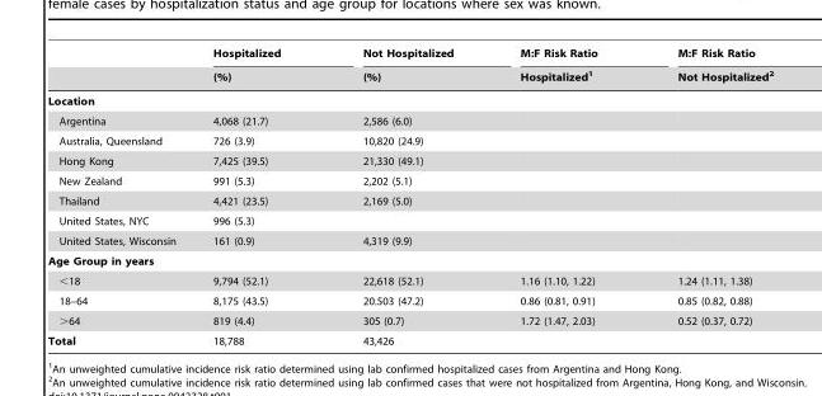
<table><thead><tr><td rowspan="2"></td><td rowspan="2">Hospitalized (%)</td><td rowspan="2">Not Hospitalized (%)</td><td rowspan="2">M:F Risk Ratio Hospitalized<sup>1</sup></td><td rowspan="2">M:F Risk Ratio Not Hospitalized<sup>2</sup></td></tr><tr></tr></thead><tbody><tr><td colspan="5">Location</td></tr><tr><td>Argentina</td><td>4,068 (21.7)</td><td>2,586 (6.0)</td><td></td><td></td></tr><tr><td>Australia, Queensland</td><td>726 (3.9)</td><td>10,820 (24.9)</td><td></td><td></td></tr><tr><td>Hong Kong</td><td>7,425 (39.5)</td><td>21,330 (49.1)</td><td></td><td></td></tr><tr><td>New Zealand</td><td>991 (5.3)</td><td>2,202 (5.1)</td><td></td><td></td></tr><tr><td>Thailand</td><td>4,421 (23.5)</td><td>2,169 (5.0)</td><td></td><td></td></tr><tr><td>United States, NYC</td><td>996 (5.3)</td><td></td><td></td><td></td></tr><tr><td>United States, Wisconsin</td><td>161 (0.9)</td><td>4,319 (9.9)</td><td></td><td></td></tr><tr><td colspan="5">Age Group in years</td></tr><tr><td>&lt;18</td><td>9,794 (52.1)</td><td>22,618 (52.1)</td><td>1.16 (1.10, 1.22)</td><td>1.24 (1.11, 1.38)</td></tr><tr><td>18–64</td><td>8,175 (43.5)</td><td>20.503 (47.2)</td><td>0.86 (0.81, 0.91)</td><td>0.85 (0.82, 0.88)</td></tr><tr><td>&gt;64</td><td>819 (4.4)</td><td>305 (0.7)</td><td>1.72 (1.47, 2.03)</td><td>0.52 (0.37, 0.72)</td></tr><tr><td>Total</td><td>18,788</td><td>43,426</td><td></td><td></td></tr></tbody></table>